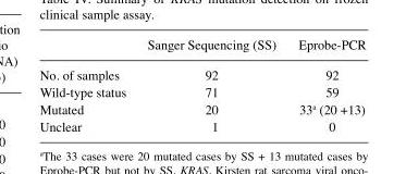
<table><thead><tr><td></td><td>Sanger Sequencing (SS)</td><td>Eprobe-PCR</td></tr></thead><tbody><tr><td>No. of samples</td><td>92</td><td>92</td></tr><tr><td>Wild-type status</td><td>71</td><td>59</td></tr><tr><td>Mutated</td><td>20</td><td>33<sup>a</sup> (20 +13)</td></tr><tr><td>Unclear</td><td>1</td><td>0</td></tr></tbody></table>